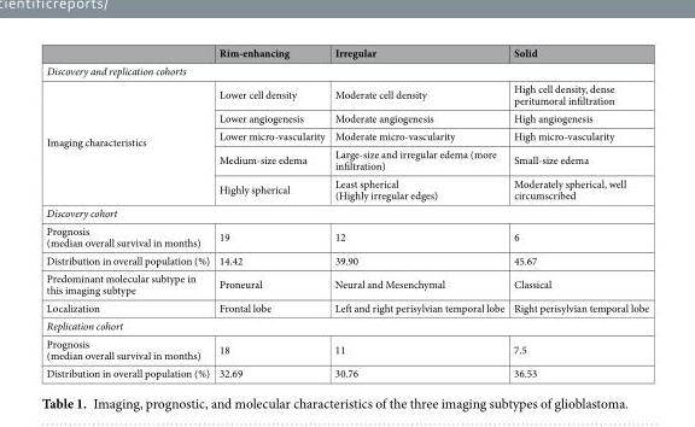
<table><thead><tr><td></td><td>Rim-enhancing</td><td>Irregular</td><td>Solid</td></tr></thead><tbody><tr><td colspan="4">Discovery and replication cohorts</td></tr><tr><td rowspan="5">Imaging characteristics</td><td>Lower cell density</td><td>Moderate cell density</td><td>High cell density, dense peritumoral infiltration</td></tr><tr><td>Lower angiogenesis</td><td>Moderate angiogenesis</td><td>High angiogenesis</td></tr><tr><td>Lower micro-vascularity</td><td>Moderate micro-vascularity</td><td>High micro-vascularity</td></tr><tr><td>Medium-size edema</td><td>Large-size and irregular edema (more infiltration)</td><td>Small-size edema</td></tr><tr><td>Highly spherical</td><td>Least spherical (Highly irregular edges)</td><td>Moderately spherical, well circumscribed</td></tr><tr><td colspan="4">Discovery cohort</td></tr><tr><td>Prognosis (median overall survival in months)</td><td>19</td><td>12</td><td>6</td></tr><tr><td>Distribution in overall population (%)</td><td>14.42</td><td>39.90</td><td>45.67</td></tr><tr><td>Predominant molecular subtype in this imaging subtype</td><td>Proneural</td><td>Neural and Mesenchymal</td><td>Classical</td></tr><tr><td>Localization</td><td>Frontal lobe</td><td>Left and right perisylvian temporal lobe</td><td>Right perisylvian temporal lobe</td></tr><tr><td colspan="4">Replication cohort</td></tr><tr><td>Prognosis (median overall survival in months)</td><td>18</td><td>11</td><td>7.5</td></tr><tr><td>Distribution in overall population (%)</td><td>32.69</td><td>30.76</td><td>36.53</td></tr></tbody></table>